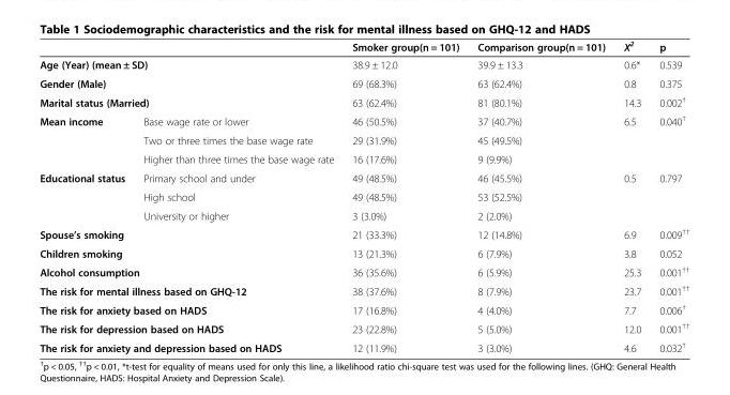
<table><thead><tr><td></td><td></td><td>Smoker group(n = 101)</td><td>Comparison group(n = 101)</td><td>X<sup>2</sup></td><td>p</td></tr></thead><tbody><tr><td colspan="2">Age (Year) (mean ± SD)</td><td>38.9 ± 12.0</td><td>39.9 ± 13.3</td><td>0.6*</td><td>0.539</td></tr><tr><td colspan="2">Gender (Male)</td><td>69 (68.3%)</td><td>63 (62.4%)</td><td>0.8</td><td>0.375</td></tr><tr><td colspan="2">Marital status (Married)</td><td>63 (62.4%)</td><td>81 (80.1%)</td><td>14.3</td><td>0.002<sup>†</sup></td></tr><tr><td rowspan="3">Mean income</td><td>Base wage rate or lower</td><td>46 (50.5%)</td><td>37 (40.7%)</td><td rowspan="3">6.5</td><td rowspan="3">0.040<sup>†</sup></td></tr><tr><td>Two or three times the base wage rate</td><td>29 (31.9%)</td><td>45 (49.5%)</td></tr><tr><td>Higher than three times the base wage rate</td><td>16 (17.6%)</td><td>9 (9.9%)</td></tr><tr><td rowspan="3">Educational status</td><td>Primary school and under</td><td>49 (48.5%)</td><td>46 (45.5%)</td><td rowspan="3">0.5</td><td rowspan="3">0.797</td></tr><tr><td>High school</td><td>49 (48.5%)</td><td>53 (52.5%)</td></tr><tr><td>University or higher</td><td>3 (3.0%)</td><td>2 (2.0%)</td></tr><tr><td colspan="2">Spouse’s smoking</td><td>21 (33.3%)</td><td>12 (14.8%)</td><td>6.9</td><td>0.009<sup>††</sup></td></tr><tr><td colspan="2">Children smoking</td><td>13 (21.3%)</td><td>6 (7.9%)</td><td>3.8</td><td>0.052</td></tr><tr><td colspan="2">Alcohol consumption</td><td>36 (35.6%)</td><td>6 (5.9%)</td><td>25.3</td><td>0.001<sup>††</sup></td></tr><tr><td colspan="2">The risk for mental illness based on GHQ-12</td><td>38 (37.6%)</td><td>8 (7.9%)</td><td>23.7</td><td>0.001<sup>††</sup></td></tr><tr><td colspan="2">The risk for anxiety based on HADS</td><td>17 (16.8%)</td><td>4 (4.0%)</td><td>7.7</td><td>0.006<sup>†</sup></td></tr><tr><td colspan="2">The risk for depression based on HADS</td><td>23 (22.8%)</td><td>5 (5.0%)</td><td>12.0</td><td>0.001<sup>††</sup></td></tr><tr><td colspan="2">The risk for anxiety and depression based on HADS</td><td>12 (11.9%)</td><td>3 (3.0%)</td><td>4.6</td><td>0.032<sup>†</sup></td></tr></tbody></table>